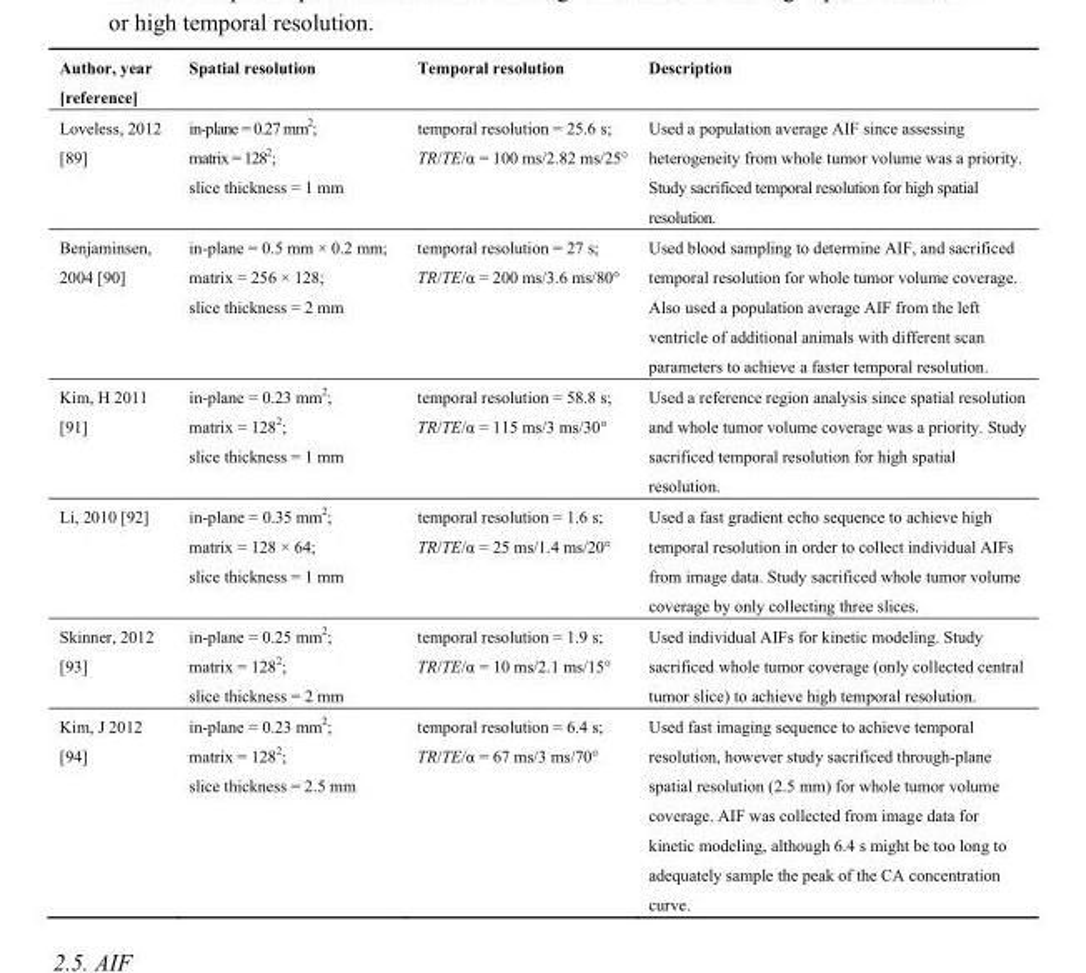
<table><thead><tr><td>Author, year [reference]</td><td>Spatial resolution</td><td>Temporal resolution</td><td>Description</td></tr></thead><tbody><tr><td>Loveless, 2012 [89]</td><td>in-plane = 0.27 mm<sup>2</sup>; matrix = 128<sup>2</sup>; slice thickness = 1 mm</td><td>temporal resolution = 25.6 s; TR/TE/α = 100 ms/2.82 ms/25°</td><td>Used a population average AIF since assessing heterogeneity from whole tumor volume was a priority. Study sacrificed temporal resolution for high spatial resolution.</td></tr><tr><td>Benjaminsen, 2004 [90]</td><td>in-plane = 0.5 mm × 0.2 mm; matrix = 256 × 128; slice thickness = 2 mm</td><td>temporal resolution = 27 s; TR/TE/α = 200 ms/3.6 ms/80°</td><td>Used blood sampling to determine AIF, and sacrificed temporal resolution for whole tumor volume coverage. Also used a population average AIF from the left ventricle of additional animals with different scan parameters to achieve a faster temporal resolution.</td></tr><tr><td>Kim, H 2011 [91]</td><td>in-plane = 0.23 mm<sup>2</sup>; matrix = 128<sup>2</sup>; slice thickness = 1 mm</td><td>temporal resolution = 58.8 s; TR/TE/α = 115 ms/3 ms/30°</td><td>Used a reference region analysis since spatial resolution and whole tumor volume coverage was a priority. Study sacrificed temporal resolution for high spatial resolution.</td></tr><tr><td>Li, 2010 [92]</td><td>in-plane = 0.35 mm<sup>2</sup>; matrix = 128 × 64; slice thickness = 1 mm</td><td>temporal resolution = 1.6 s; TR/TE/α = 25 ms/1.4 ms/20°</td><td>Used a fast gradient echo sequence to achieve high temporal resolution in order to collect individual AIFs from image data. Study sacrificed whole tumor volume coverage by only collecting three slices.</td></tr><tr><td>Skinner, 2012 [93]</td><td>in-plane = 0.25 mm<sup>2</sup>; matrix = 128<sup>2</sup>; slice thickness = 2 mm</td><td>temporal resolution = 1.9 s; TR/TE/α = 10 ms/2.1 ms/15°</td><td>Used individual AIFs for kinetic modeling. Study sacrificed whole tumor coverage (only collected central tumor slice) to achieve high temporal resolution.</td></tr><tr><td>Kim, J 2012 [94]</td><td>in-plane = 0.23 mm<sup>2</sup>; matrix = 128<sup>2</sup>; slice thickness = 2.5 mm</td><td>temporal resolution = 6.4 s; TR/TE/α = 67 ms/3 ms/70°</td><td>Used fast imaging sequence to achieve temporal resolution, however study sacrificed through-plane spatial resolution (2.5 mm) for whole tumor volume coverage. AIF was collected from image data for kinetic modeling, although 6.4 s might be too long to adequately sample the peak of the CA concentration curve.</td></tr></tbody></table>